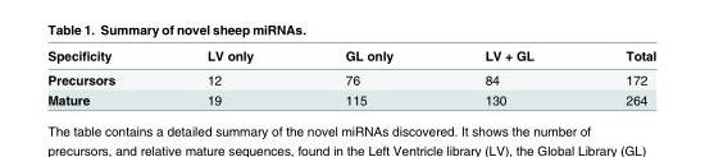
<table><thead><tr><td>Specificity</td><td>LV only</td><td>GL only</td><td>LV + GL</td><td>Total</td></tr></thead><tbody><tr><td>Precursors</td><td>12</td><td>76</td><td>84</td><td>172</td></tr><tr><td>Mature</td><td>19</td><td>115</td><td>130</td><td>264</td></tr></tbody></table>